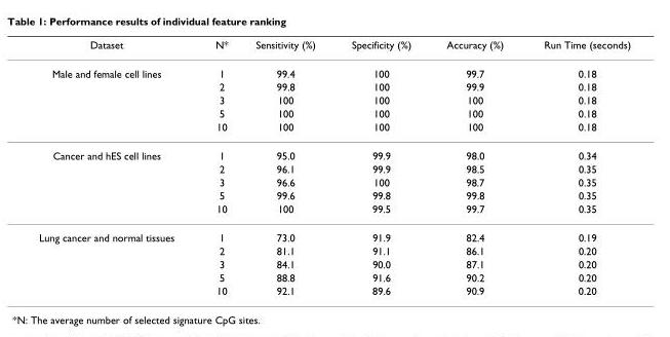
<table><thead><tr><td>Dataset</td><td>N*</td><td>Sensitivity (%)</td><td>Specificity (%)</td><td>Accuracy (%)</td><td>Run Time (seconds)</td></tr></thead><tbody><tr><td rowspan="5">Male and female cell lines</td><td>1</td><td>99.4</td><td>100</td><td>99.7</td><td>0.18</td></tr><tr><td>2</td><td>99.8</td><td>100</td><td>99.9</td><td>0.18</td></tr><tr><td>3</td><td>100</td><td>100</td><td>100</td><td>0.18</td></tr><tr><td>5</td><td>100</td><td>100</td><td>100</td><td>0.18</td></tr><tr><td>10</td><td>100</td><td>100</td><td>100</td><td>0.18</td></tr><tr><td rowspan="5">Cancer and hES cell lines</td><td>1</td><td>95.0</td><td>99.9</td><td>98.0</td><td>0.34</td></tr><tr><td>2</td><td>96.1</td><td>99.9</td><td>98.5</td><td>0.35</td></tr><tr><td>3</td><td>96.6</td><td>100</td><td>98.7</td><td>0.35</td></tr><tr><td>5</td><td>99.6</td><td>99.8</td><td>99.8</td><td>0.35</td></tr><tr><td>10</td><td>100</td><td>99.5</td><td>99.7</td><td>0.35</td></tr><tr><td rowspan="5">Lung cancer and normal tissues</td><td>1</td><td>73.0</td><td>91.9</td><td>82.4</td><td>0.19</td></tr><tr><td>2</td><td>81.1</td><td>91.1</td><td>86.1</td><td>0.20</td></tr><tr><td>3</td><td>84.1</td><td>90.0</td><td>87.1</td><td>0.20</td></tr><tr><td>5</td><td>88.8</td><td>91.6</td><td>90.2</td><td>0.20</td></tr><tr><td>10</td><td>92.1</td><td>89.6</td><td>90.9</td><td>0.20</td></tr></tbody></table>